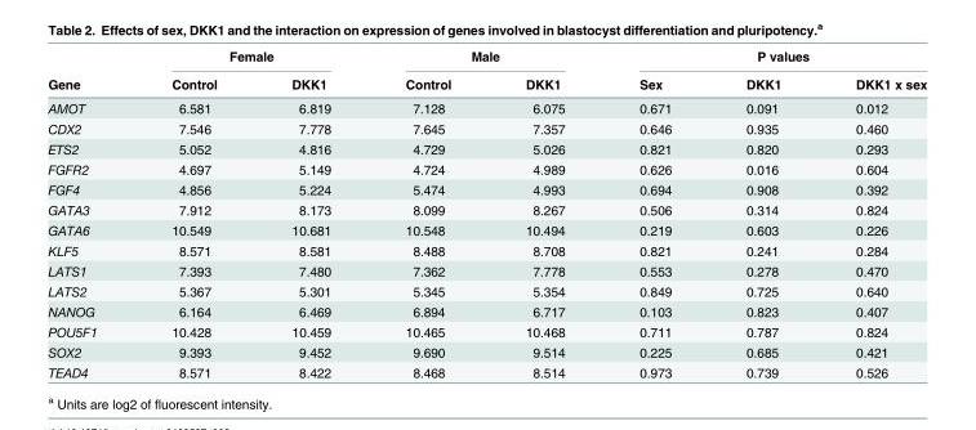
<table><thead><tr><td rowspan="2">Gene</td><td colspan="2">Female</td><td colspan="2">Male</td><td colspan="3">P values</td></tr><tr><td>Control</td><td>DKK1</td><td>Control</td><td>DKK1</td><td>Sex</td><td>DKK1</td><td>DKK1 x sex</td></tr></thead><tbody><tr><td>AMOT</td><td>6.581</td><td>6.819</td><td>7.128</td><td>6.075</td><td>0.671</td><td>0.091</td><td>0.012</td></tr><tr><td>CDX2</td><td>7.546</td><td>7.778</td><td>7.645</td><td>7.357</td><td>0.646</td><td>0.935</td><td>0.460</td></tr><tr><td>ETS2</td><td>5.052</td><td>4.816</td><td>4.729</td><td>5.026</td><td>0.821</td><td>0.820</td><td>0.293</td></tr><tr><td>FGFR2</td><td>4.697</td><td>5.149</td><td>4.724</td><td>4.989</td><td>0.626</td><td>0.016</td><td>0.604</td></tr><tr><td>FGF4</td><td>4.856</td><td>5.224</td><td>5.474</td><td>4.993</td><td>0.694</td><td>0.908</td><td>0.392</td></tr><tr><td>GATA3</td><td>7.912</td><td>8.173</td><td>8.099</td><td>8.267</td><td>0.506</td><td>0.314</td><td>0.824</td></tr><tr><td>GATA6</td><td>10.549</td><td>10.681</td><td>10.548</td><td>10.494</td><td>0.219</td><td>0.603</td><td>0.226</td></tr><tr><td>KLF5</td><td>8.571</td><td>8.581</td><td>8.488</td><td>8.708</td><td>0.821</td><td>0.241</td><td>0.284</td></tr><tr><td>LATS1</td><td>7.393</td><td>7.480</td><td>7.362</td><td>7.778</td><td>0.553</td><td>0.278</td><td>0.470</td></tr><tr><td>LATS2</td><td>5.367</td><td>5.301</td><td>5.345</td><td>5.354</td><td>0.849</td><td>0.725</td><td>0.640</td></tr><tr><td>NANOG</td><td>6.164</td><td>6.469</td><td>6.894</td><td>6.717</td><td>0.103</td><td>0.823</td><td>0.407</td></tr><tr><td>POU5F1</td><td>10.428</td><td>10.459</td><td>10.465</td><td>10.468</td><td>0.711</td><td>0.787</td><td>0.824</td></tr><tr><td>SOX2</td><td>9.393</td><td>9.452</td><td>9.690</td><td>9.514</td><td>0.225</td><td>0.685</td><td>0.421</td></tr><tr><td>TEAD4</td><td>8.571</td><td>8.422</td><td>8.468</td><td>8.514</td><td>0.973</td><td>0.739</td><td>0.526</td></tr></tbody></table>